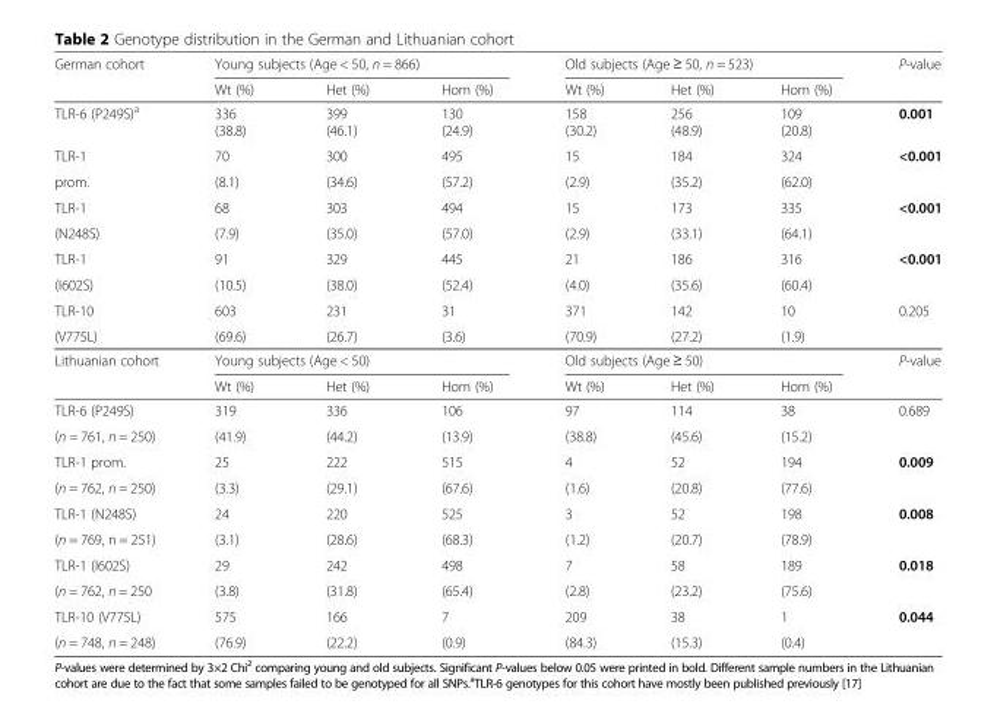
<table><tbody><tr><td rowspan="2">German cohort</td><td colspan="3">Young subjects (Age &lt; 50, n = 866)</td><td colspan="3">Old subjects (Age ≥ 50, n = 523)</td><td>P-value</td></tr><tr><td>Wt (%)</td><td>Het (%)</td><td>Hom (%)</td><td>Wt (%)</td><td>Het (%)</td><td>Hom (%)</td><td></td></tr><tr><td>TLR-6 (P249S)<sup>a</sup></td><td>336 (38.8)</td><td>399 (46.1)</td><td>130 (24.9)</td><td>158 (30.2)</td><td>256 (48.9)</td><td>109 (20.8)</td><td>0.001</td></tr><tr><td>TLR-1</td><td>70</td><td>300</td><td>495</td><td>15</td><td>184</td><td>324</td><td>&lt;0.001</td></tr><tr><td>prom.</td><td>(8.1)</td><td>(34.6)</td><td>(57.2)</td><td>(2.9)</td><td>(35.2)</td><td>(62.0)</td><td></td></tr><tr><td>TLR-1</td><td>68</td><td>303</td><td>494</td><td>15</td><td>173</td><td>335</td><td>&lt;0.001</td></tr><tr><td>(N248S)</td><td>(7.9)</td><td>(35.0)</td><td>(57.0)</td><td>(2.9)</td><td>(33.1)</td><td>(64.1)</td><td></td></tr><tr><td>TLR-1</td><td>91</td><td>329</td><td>445</td><td>21</td><td>186</td><td>316</td><td>&lt;0.001</td></tr><tr><td>(I602S)</td><td>(10.5)</td><td>(38.0)</td><td>(52.4)</td><td>(4.0)</td><td>(35.6)</td><td>(60.4)</td><td></td></tr><tr><td>TLR-10</td><td>603</td><td>231</td><td>31</td><td>371</td><td>142</td><td>10</td><td>0.205</td></tr><tr><td>(V775L)</td><td>(69.6)</td><td>(26.7)</td><td>(3.6)</td><td>(70.9)</td><td>(27.2)</td><td>(1.9)</td><td></td></tr><tr><td rowspan="2">Lithuanian cohort</td><td colspan="3">Young subjects (Age &lt; 50)</td><td colspan="3">Old subjects (Age ≥ 50)</td><td>P-value</td></tr><tr><td>Wt (%)</td><td>Het (%)</td><td>Hom (%)</td><td>Wt (%)</td><td>Het (%)</td><td>Hom (%)</td><td></td></tr><tr><td>TLR-6 (P249S)</td><td>319</td><td>336</td><td>106</td><td>97</td><td>114</td><td>38</td><td>0.689</td></tr><tr><td>(n = 761, n = 250)</td><td>(41.9)</td><td>(44.2)</td><td>(13.9)</td><td>(38.8)</td><td>(45.6)</td><td>(15.2)</td><td></td></tr><tr><td>TLR-1 prom.</td><td>25</td><td>222</td><td>515</td><td>4</td><td>52</td><td>194</td><td>0.009</td></tr><tr><td>(n = 762, n = 250)</td><td>(3.3)</td><td>(29.1)</td><td>(67.6)</td><td>(1.6)</td><td>(20.8)</td><td>(77.6)</td><td></td></tr><tr><td>TLR-1 (N248S)</td><td>24</td><td>220</td><td>525</td><td>3</td><td>52</td><td>198</td><td>0.008</td></tr><tr><td>(n = 769, n = 251)</td><td>(3.1)</td><td>(28.6)</td><td>(68.3)</td><td>(1.2)</td><td>(20.7)</td><td>(78.9)</td><td></td></tr><tr><td>TLR-1 (I602S)</td><td>29</td><td>242</td><td>498</td><td>7</td><td>58</td><td>189</td><td>0.018</td></tr><tr><td>(n = 762, n = 250</td><td>(3.8)</td><td>(31.8)</td><td>(65.4)</td><td>(2.8)</td><td>(23.2)</td><td>(75.6)</td><td></td></tr><tr><td>TLR-10 (V775L)</td><td>575</td><td>166</td><td>7</td><td>209</td><td>38</td><td>1</td><td>0.044</td></tr><tr><td>(n = 748, n = 248)</td><td>(76.9)</td><td>(22.2)</td><td>(0.9)</td><td>(84.3)</td><td>(15.3)</td><td>(0.4)</td><td></td></tr></tbody></table>